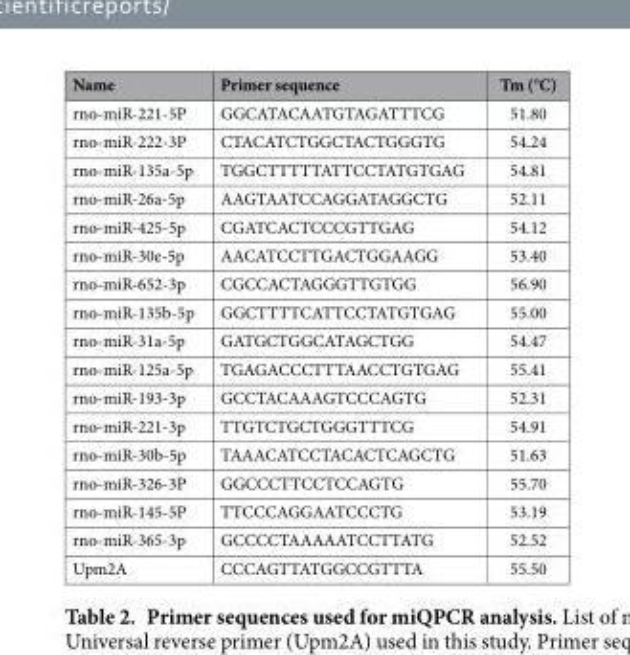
<table><thead><tr><td>Name</td><td>Primer sequence</td><td>Tm (°C)</td></tr></thead><tbody><tr><td>rno-miR-221-5P</td><td>GGCATACAATGTAGATTTCG</td><td>51.80</td></tr><tr><td>rno-miR-222-3P</td><td>CTACATCTGGCTACTGGGTG</td><td>54.24</td></tr><tr><td>rno-miR-135a-5p</td><td>TGGCTTTTTATTCCTATGTGAG</td><td>54.81</td></tr><tr><td>rno-miR-26a-5p</td><td>AAGTAATCCAGGATAGGCTG</td><td>52.11</td></tr><tr><td>rno-miR-425-5p</td><td>CGATCACTCCCGTTGAG</td><td>54.12</td></tr><tr><td>rno-miR-30e-5p</td><td>AACATCCTTGACTGGAAGG</td><td>53.40</td></tr><tr><td>rno-miR-652-3p</td><td>CGCCACTAGGGTTGTGG</td><td>56.90</td></tr><tr><td>rno-miR-135b-5p</td><td>GGCTTTTCATTCCTATGTGAG</td><td>55.00</td></tr><tr><td>rno-miR-31a-5p</td><td>GATGCTGGCATAGCTGG</td><td>54.47</td></tr><tr><td>rno-miR-125a-5p</td><td>TGAGACCCTTTAACCTGTGAG</td><td>55.41</td></tr><tr><td>rno-miR-193-3p</td><td>GCCTACAAAGTCCCAGTG</td><td>52.31</td></tr><tr><td>rno-miR-221-3p</td><td>TTGTCTGCTGGGTTTCG</td><td>54.91</td></tr><tr><td>rno-miR-30b-5p</td><td>TAAACATCCTACACTCAGCTG</td><td>51.63</td></tr><tr><td>rno-miR-326-3P</td><td>GGCCCTTCCTCCAGTG</td><td>55.70</td></tr><tr><td>rno-miR-145-5P</td><td>TTCCCAGGAATCCCTG</td><td>53.19</td></tr><tr><td>rno-miR-365-3p</td><td>GCCCCTAAAAATCCTTATG</td><td>52.52</td></tr><tr><td>Upm2A</td><td>CCCAGTTATGGCCGTTTA</td><td>55.50</td></tr></tbody></table>